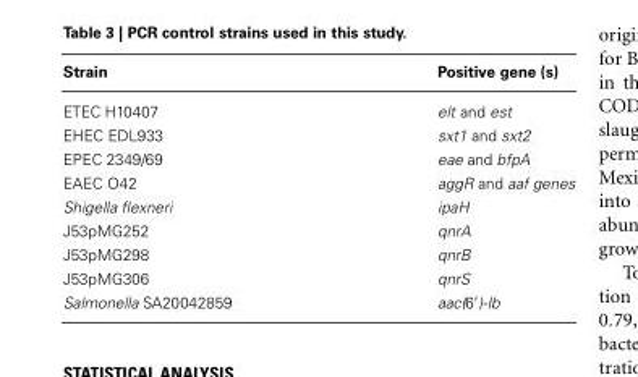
<table><thead><tr><td>Strain</td><td>Positive gene (s)</td></tr></thead><tbody><tr><td>ETEC H10407</td><td>elt and est</td></tr><tr><td>EHEC EDL933</td><td>sxt1 and sxt2</td></tr><tr><td>EPEC 2349/69</td><td>eae and bfpA</td></tr><tr><td>EAEC O42</td><td>aggR and aaf genes</td></tr><tr><td>Shigella flexneri</td><td>ipaH</td></tr><tr><td>J53pMG252</td><td>qnrA</td></tr><tr><td>J53pMG298</td><td>qnrB</td></tr><tr><td>J53pMG306</td><td>qnrS</td></tr><tr><td>Salmonella SA20042859</td><td>aac(6′)-Ib</td></tr></tbody></table>